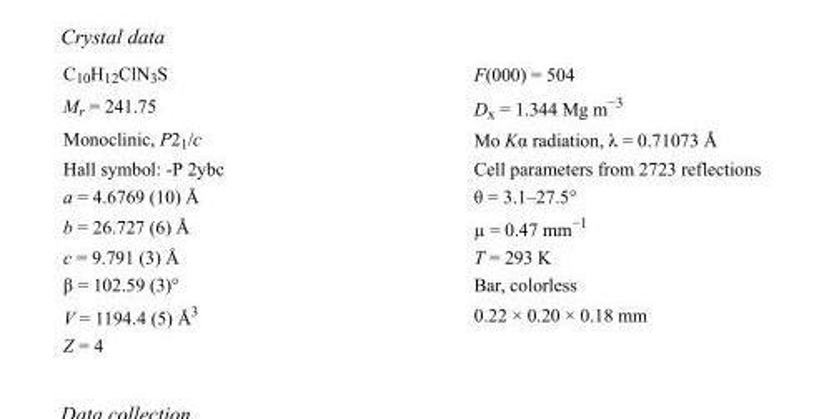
<table><tbody><tr><td>C<sub>10</sub>H<sub>12</sub>ClN<sub>3</sub>S</td><td>F(000) = 504</td></tr><tr><td>M<sub>r</sub> = 241.75</td><td>D<sub>x</sub> = 1.344 Mg m<sup>−3</sup></td></tr><tr><td>Monoclinic, P2<sub>1</sub>/c</td><td>Mo Kα radiation, λ = 0.71073 Å</td></tr><tr><td>Hall symbol: -P 2ybc</td><td>Cell parameters from 2723 reflections</td></tr><tr><td>a = 4.6769 (10) Å</td><td>θ = 3.1–27.5°</td></tr><tr><td>b = 26.727 (6) Å</td><td>µ = 0.47 mm<sup>−1</sup></td></tr><tr><td>c = 9.791 (3) Å</td><td>T = 293 K</td></tr><tr><td>β = 102.59 (3)°</td><td>Bar, colorless</td></tr><tr><td>V = 1194.4 (5) Å<sup>3</sup></td><td>0.22 × 0.20 × 0.18 mm</td></tr><tr><td>Z = 4</td><td></td></tr></tbody></table>